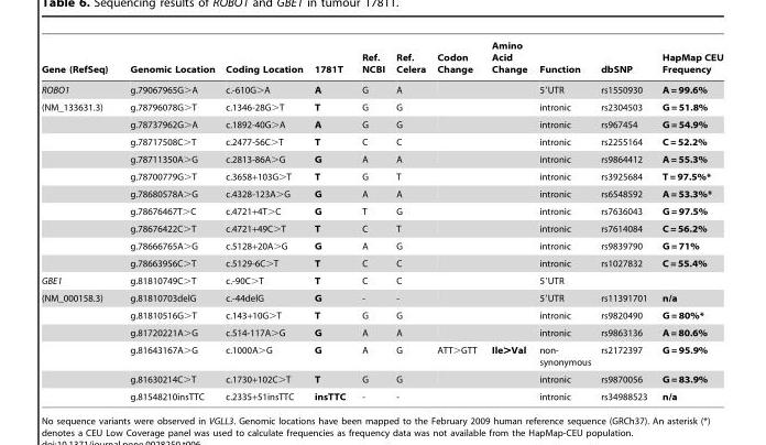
<table><thead><tr><td>Gene (RefSeq)</td><td>Genomic Location</td><td>Coding Location</td><td>1781T</td><td>Ref. NCBI</td><td>Ref. Celera</td><td>Codon Change</td><td>Amino Acid Change</td><td>Function</td><td>dbSNP</td><td>HapMap CEU Frequency</td></tr></thead><tbody><tr><td>ROBO1</td><td>g.79067965G&gt;A</td><td>c.-610G&gt;A</td><td>A</td><td>G</td><td>A</td><td></td><td></td><td>5′UTR</td><td>rs1550930</td><td>A = 99.6%</td></tr><tr><td rowspan="10">(NM_133631.3)</td><td>g.78796078G&gt;T</td><td>c.1346-28G&gt;T</td><td>T</td><td>G</td><td>G</td><td></td><td></td><td>intronic</td><td>rs2304503</td><td>G = 51.8%</td></tr><tr><td>g.78737962G&gt;A</td><td>c.1892-40G&gt;A</td><td>A</td><td>G</td><td>G</td><td></td><td></td><td>intronic</td><td>rs967454</td><td>G = 54.9%</td></tr><tr><td>g.78717508C&gt;T</td><td>c.2477-56C&gt;T</td><td>T</td><td>C</td><td>C</td><td></td><td></td><td>intronic</td><td>rs2255164</td><td>C = 52.2%</td></tr><tr><td>g.78711350A&gt;G</td><td>c.2813-86A&gt;G</td><td>G</td><td>A</td><td>A</td><td></td><td></td><td>intronic</td><td>rs9864412</td><td>A = 55.3%</td></tr><tr><td>g.78700779G&gt;T</td><td>c.3658+103G&gt;T</td><td>T</td><td>G</td><td>T</td><td></td><td></td><td>intronic</td><td>rs3925684</td><td>T = 97.5%*</td></tr><tr><td>g.78680578A&gt;G</td><td>c.4328-123A&gt;G</td><td>G</td><td>A</td><td>A</td><td></td><td></td><td>intronic</td><td>rs6548592</td><td>A = 53.3%*</td></tr><tr><td>g.78676467T&gt;C</td><td>c.4721+4T&gt;C</td><td>G</td><td>T</td><td>G</td><td></td><td></td><td>intronic</td><td>rs7636043</td><td>G = 97.5%</td></tr><tr><td>g.78676422C&gt;T</td><td>c.4721+49C&gt;T</td><td>T</td><td>C</td><td>T</td><td></td><td></td><td>intronic</td><td>rs7614084</td><td>C = 56.2%</td></tr><tr><td>g.78666765A&gt;G</td><td>c.5128+20A&gt;G</td><td>G</td><td>A</td><td>G</td><td></td><td></td><td>intronic</td><td>rs9839790</td><td>G = 71%</td></tr><tr><td>g.78663956C&gt;T</td><td>c.5129-6C&gt;T</td><td>T</td><td>C</td><td>C</td><td></td><td></td><td>intronic</td><td>rs1027832</td><td>C = 55.4%</td></tr><tr><td>GBE1</td><td>g.81810749C&gt;T</td><td>c.-90C&gt;T</td><td>T</td><td>C</td><td>C</td><td></td><td></td><td>5′UTR</td><td></td><td></td></tr><tr><td rowspan="6">(NM_000158.3)</td><td>g.81810703delG</td><td>c.-44delG</td><td>G</td><td>-</td><td>-</td><td></td><td></td><td>5′UTR</td><td>rs11391701</td><td>n/a</td></tr><tr><td>g.81810516G&gt;T</td><td>c.143+10G&gt;T</td><td>T</td><td>G</td><td>G</td><td></td><td></td><td>intronic</td><td>rs9820490</td><td>G = 80%*</td></tr><tr><td>g.81720221A&gt;G</td><td>c.514-117A&gt;G</td><td>G</td><td>A</td><td>A</td><td></td><td></td><td>intronic</td><td>rs9863136</td><td>A = 80.6%</td></tr><tr><td>g.81643167A&gt;G</td><td>c.1000A&gt;G</td><td>G</td><td>A</td><td>G</td><td>ATT&gt;GTT</td><td>Ile&gt;Val</td><td>non- synonymous</td><td>rs2172397</td><td>G = 95.9%</td></tr><tr><td>g.81630214C&gt;T</td><td>c.1730+102C&gt;T</td><td>T</td><td>G</td><td>G</td><td></td><td></td><td>intronic</td><td>rs9870056</td><td>G = 83.9%</td></tr><tr><td>g.81548210insTTC</td><td>c.2335+51insTTC</td><td>insTTC</td><td>-</td><td>-</td><td></td><td></td><td>intronic</td><td>rs34988523</td><td>n/a</td></tr></tbody></table>